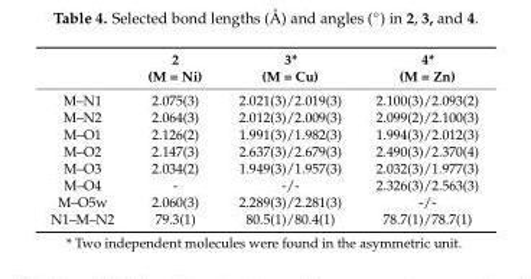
<table><thead><tr><td></td><td>2 (M = Ni)</td><td>3* (M = Cu)</td><td>4* (M = Zn)</td></tr></thead><tbody><tr><td>M–N1</td><td>2.075(3)</td><td>2.021(3)/2.019(3)</td><td>2.100(3)/2.093(2)</td></tr><tr><td>M–N2</td><td>2.064(3)</td><td>2.012(3)/2.009(3)</td><td>2.099(2)/2.100(3)</td></tr><tr><td>M–O1</td><td>2.126(2)</td><td>1.991(3)/1.982(3)</td><td>1.994(3)/2.012(3)</td></tr><tr><td>M–O2</td><td>2.147(3)</td><td>2.637(3)/2.679(3)</td><td>2.490(3)/2.370(4)</td></tr><tr><td>M–O3</td><td>2.034(2)</td><td>1.949(3)/1.957(3)</td><td>2.032(3)/1.977(3)</td></tr><tr><td>M–O4</td><td>-</td><td>-/-</td><td>2.326(3)/2.563(3)</td></tr><tr><td>M–O5w</td><td>2.060(3)</td><td>2.289(3)/2.281(3)</td><td>-/-</td></tr><tr><td>N1–M–N2</td><td>79.3(1)</td><td>80.5(1)/80.4(1)</td><td>78.7(1)/78.7(1)</td></tr></tbody></table>